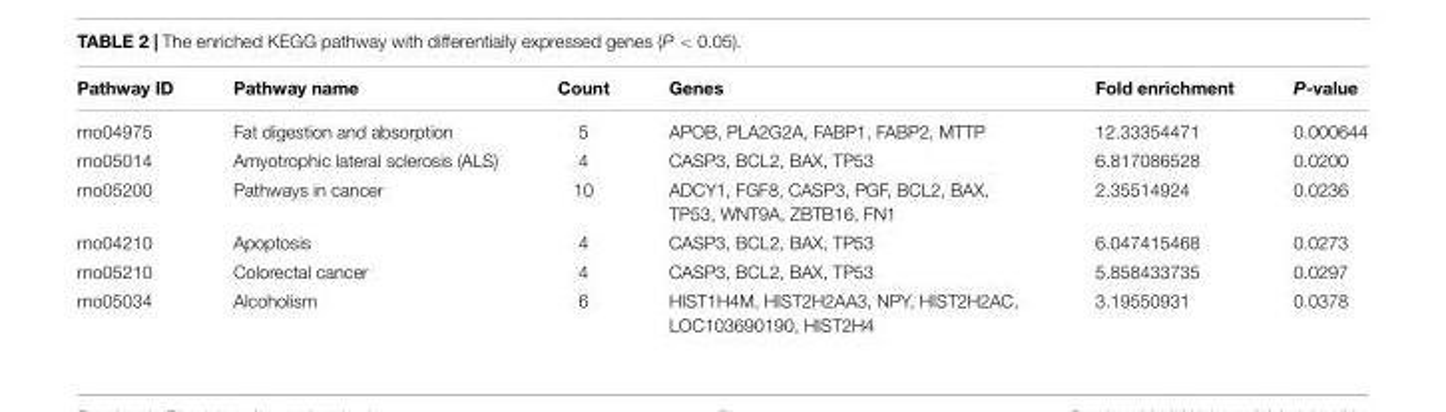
<table><thead><tr><td>Pathway ID</td><td>Pathway name</td><td>Count</td><td>Genes</td><td>Fold enrichment</td><td>P-value</td></tr></thead><tbody><tr><td>rno04975</td><td>Fat digestion and absorption</td><td>5</td><td>APOB, PLA2G2A, FABP1, FABP2, MTTP</td><td>12.33354471</td><td>0.000644</td></tr><tr><td>rno05014</td><td>Amyotrophic lateral sclerosis (ALS)</td><td>4</td><td>CASP3, BCL2, BAX, TP53</td><td>6.817086528</td><td>0.0200</td></tr><tr><td>rno05200</td><td>Pathways in cancer</td><td>10</td><td>ADCY1, FGF8, CASP3, PGF, BCL2, BAX, TP53, WNT9A, ZBTB16, FN1</td><td>2.35514924</td><td>0.0236</td></tr><tr><td>rno04210</td><td>Apoptosis</td><td>4</td><td>CASP3, BCL2, BAX, TP53</td><td>6.047415468</td><td>0.0273</td></tr><tr><td>rno05210</td><td>Colorectal cancer</td><td>4</td><td>CASP3, BCL2, BAX, TP53</td><td>5.858433735</td><td>0.0297</td></tr><tr><td>rno05034</td><td>Alcoholism</td><td>6</td><td>HIST1H4M, HIST2H2AA3, NPY, HIST2H2AC, LOC103690190, HIST2H4</td><td>3.19550931</td><td>0.0378</td></tr></tbody></table>